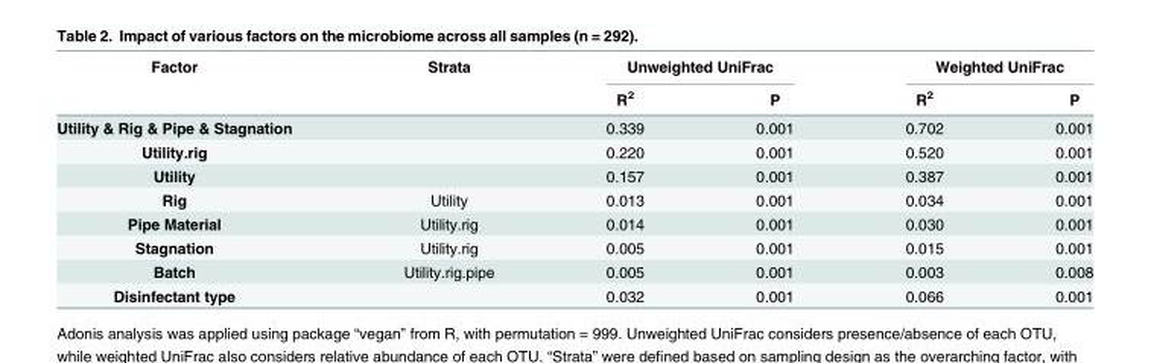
<table><thead><tr><td rowspan="2">Factor</td><td rowspan="2">Strata</td><td colspan="2">Unweighted UniFrac</td><td colspan="2">Weighted UniFrac</td></tr><tr><td>R<sup>2</sup></td><td>P</td><td>R<sup>2</sup></td><td>P</td></tr></thead><tbody><tr><td>Utility &amp; Rig &amp; Pipe &amp; Stagnation</td><td></td><td>0.339</td><td>0.001</td><td>0.702</td><td>0.001</td></tr><tr><td>Utility.rig</td><td></td><td>0.220</td><td>0.001</td><td>0.520</td><td>0.001</td></tr><tr><td>Utility</td><td></td><td>0.157</td><td>0.001</td><td>0.387</td><td>0.001</td></tr><tr><td>Rig</td><td>Utility</td><td>0.013</td><td>0.001</td><td>0.034</td><td>0.001</td></tr><tr><td>Pipe Material</td><td>Utility.rig</td><td>0.014</td><td>0.001</td><td>0.030</td><td>0.001</td></tr><tr><td>Stagnation</td><td>Utility.rig</td><td>0.005</td><td>0.001</td><td>0.015</td><td>0.001</td></tr><tr><td>Batch</td><td>Utility.rig.pipe</td><td>0.005</td><td>0.001</td><td>0.003</td><td>0.008</td></tr><tr><td>Disinfectant type</td><td></td><td>0.032</td><td>0.001</td><td>0.066</td><td>0.001</td></tr></tbody></table>